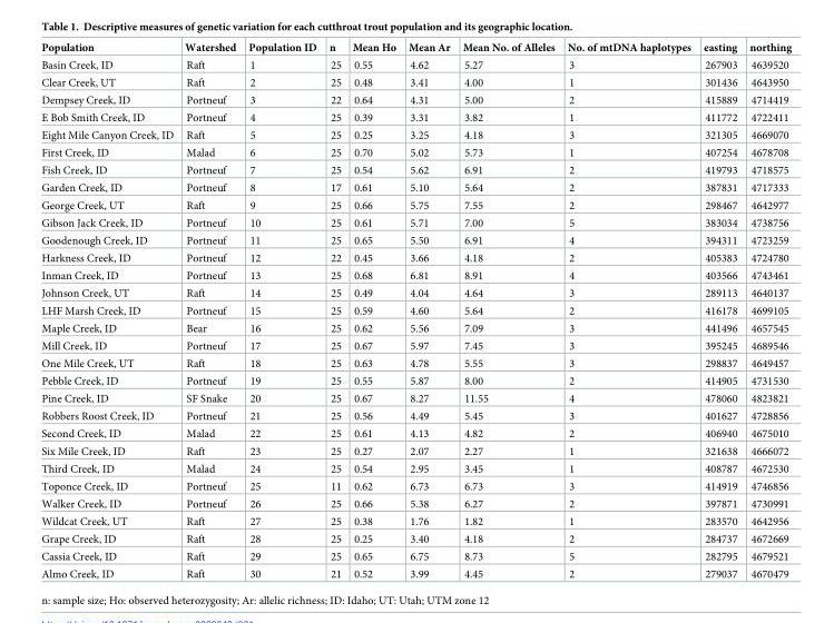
<table><thead><tr><td>Population</td><td>Watershed</td><td>Population ID</td><td>n</td><td>Mean Ho</td><td>Mean Ar</td><td>Mean No. of Alleles</td><td>No. of mtDNA haplotypes</td><td>easting</td><td>northing</td></tr></thead><tbody><tr><td>Basin Creek, ID</td><td>Raft</td><td>1</td><td>25</td><td>0.55</td><td>4.62</td><td>5.27</td><td>3</td><td>267903</td><td>4639520</td></tr><tr><td>Clear Creek, UT</td><td>Raft</td><td>2</td><td>25</td><td>0.48</td><td>3.41</td><td>4.00</td><td>1</td><td>301436</td><td>4643950</td></tr><tr><td>Dempsey Creek, ID</td><td>Portneuf</td><td>3</td><td>22</td><td>0.64</td><td>4.31</td><td>5.00</td><td>2</td><td>415889</td><td>4714419</td></tr><tr><td>E Bob Smith Creek, ID</td><td>Portneuf</td><td>4</td><td>25</td><td>0.39</td><td>3.31</td><td>3.82</td><td>1</td><td>411772</td><td>4722411</td></tr><tr><td>Eight Mile Canyon Creek, ID</td><td>Raft</td><td>5</td><td>25</td><td>0.25</td><td>3.25</td><td>4.18</td><td>3</td><td>321305</td><td>4669070</td></tr><tr><td>First Creek, ID</td><td>Malad</td><td>6</td><td>25</td><td>0.70</td><td>5.02</td><td>5.73</td><td>1</td><td>407254</td><td>4678708</td></tr><tr><td>Fish Creek, ID</td><td>Portneuf</td><td>7</td><td>25</td><td>0.54</td><td>5.62</td><td>6.91</td><td>2</td><td>419793</td><td>4718575</td></tr><tr><td>Garden Creek, ID</td><td>Portneuf</td><td>8</td><td>17</td><td>0.61</td><td>5.10</td><td>5.64</td><td>2</td><td>387831</td><td>4717333</td></tr><tr><td>George Creek, UT</td><td>Raft</td><td>9</td><td>25</td><td>0.66</td><td>5.75</td><td>7.55</td><td>2</td><td>298467</td><td>4642977</td></tr><tr><td>Gibson Jack Creek, ID</td><td>Portneuf</td><td>10</td><td>25</td><td>0.61</td><td>5.71</td><td>7.00</td><td>5</td><td>383034</td><td>4738756</td></tr><tr><td>Goodenough Creek, ID</td><td>Portneuf</td><td>11</td><td>25</td><td>0.65</td><td>5.50</td><td>6.91</td><td>4</td><td>394311</td><td>4723259</td></tr><tr><td>Harkness Creek, ID</td><td>Portneuf</td><td>12</td><td>22</td><td>0.45</td><td>3.66</td><td>4.18</td><td>2</td><td>405383</td><td>4724780</td></tr><tr><td>Inman Creek, ID</td><td>Portneuf</td><td>13</td><td>25</td><td>0.68</td><td>6.81</td><td>8.91</td><td>4</td><td>403566</td><td>4743461</td></tr><tr><td>Johnson Creek, UT</td><td>Raft</td><td>14</td><td>25</td><td>0.49</td><td>4.04</td><td>4.64</td><td>3</td><td>289113</td><td>4640137</td></tr><tr><td>LHF Marsh Creek, ID</td><td>Portneuf</td><td>15</td><td>25</td><td>0.59</td><td>4.60</td><td>5.64</td><td>2</td><td>416178</td><td>4699105</td></tr><tr><td>Maple Creek, ID</td><td>Bear</td><td>16</td><td>25</td><td>0.62</td><td>5.56</td><td>7.09</td><td>3</td><td>441496</td><td>4657545</td></tr><tr><td>Mill Creek, ID</td><td>Portneuf</td><td>17</td><td>25</td><td>0.67</td><td>5.97</td><td>7.45</td><td>3</td><td>395245</td><td>4689546</td></tr><tr><td>One Mile Creek, UT</td><td>Raft</td><td>18</td><td>25</td><td>0.63</td><td>4.78</td><td>5.55</td><td>3</td><td>298837</td><td>4649457</td></tr><tr><td>Pebble Creek, ID</td><td>Portneuf</td><td>19</td><td>25</td><td>0.55</td><td>5.87</td><td>8.00</td><td>2</td><td>414905</td><td>4731530</td></tr><tr><td>Pine Creek, ID</td><td>SF Snake</td><td>20</td><td>25</td><td>0.67</td><td>8.27</td><td>11.55</td><td>4</td><td>478060</td><td>4823821</td></tr><tr><td>Robbers Roost Creek, ID</td><td>Portneuf</td><td>21</td><td>25</td><td>0.56</td><td>4.49</td><td>5.45</td><td>3</td><td>401627</td><td>4728856</td></tr><tr><td>Second Creek, ID</td><td>Malad</td><td>22</td><td>25</td><td>0.61</td><td>4.13</td><td>4.82</td><td>2</td><td>406940</td><td>4675010</td></tr><tr><td>Six Mile Creek, ID</td><td>Raft</td><td>23</td><td>25</td><td>0.27</td><td>2.07</td><td>2.27</td><td>1</td><td>321638</td><td>4666072</td></tr><tr><td>Third Creek, ID</td><td>Malad</td><td>24</td><td>25</td><td>0.54</td><td>2.95</td><td>3.45</td><td>1</td><td>408787</td><td>4672530</td></tr><tr><td>Toponce Creek, ID</td><td>Portneuf</td><td>25</td><td>11</td><td>0.62</td><td>6.73</td><td>6.73</td><td>3</td><td>414919</td><td>4746856</td></tr><tr><td>Walker Creek, ID</td><td>Portneuf</td><td>26</td><td>25</td><td>0.66</td><td>5.38</td><td>6.27</td><td>2</td><td>397871</td><td>4730991</td></tr><tr><td>Wildcat Creek, UT</td><td>Raft</td><td>27</td><td>25</td><td>0.38</td><td>1.76</td><td>1.82</td><td>1</td><td>283570</td><td>4642956</td></tr><tr><td>Grape Creek, ID</td><td>Raft</td><td>28</td><td>25</td><td>0.25</td><td>3.40</td><td>4.18</td><td>2</td><td>284737</td><td>4672669</td></tr><tr><td>Cassia Creek, ID</td><td>Raft</td><td>29</td><td>25</td><td>0.65</td><td>6.75</td><td>8.73</td><td>5</td><td>282795</td><td>4679521</td></tr><tr><td>Almo Creek, ID</td><td>Raft</td><td>30</td><td>21</td><td>0.52</td><td>3.99</td><td>4.45</td><td>2</td><td>279037</td><td>4670479</td></tr></tbody></table>